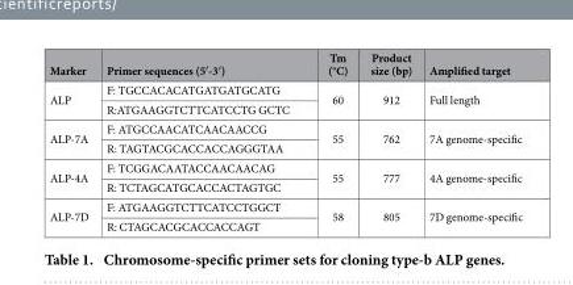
<table><thead><tr><td>Marker</td><td>Primer sequences (5′ -3′ )</td><td>Tm (°C)</td><td>Product size (bp)</td><td>Amplified target</td></tr></thead><tbody><tr><td rowspan="2">ALP</td><td>F: TGCCACACATGATGATGCATG</td><td rowspan="2">60</td><td rowspan="2">912</td><td rowspan="2">Full length</td></tr><tr><td>R:ATGAAGGTCTTCATCCTG GCTC</td></tr><tr><td rowspan="2">ALP-7A</td><td>F: ATGCCAACATCAACAACCG</td><td rowspan="2">55</td><td rowspan="2">762</td><td rowspan="2">7A genome-specific</td></tr><tr><td>R: TAGTACGCACCACCAGGGTAA</td></tr><tr><td rowspan="2">ALP-4A</td><td>F: TCGGACAATACCAACAACAG</td><td rowspan="2">55</td><td rowspan="2">777</td><td rowspan="2">4A genome-specific</td></tr><tr><td>R: TCTAGCATGCACCACTAGTGC</td></tr><tr><td rowspan="2">ALP-7D</td><td>F: ATGAAGGTCTTCATCCTGGCT</td><td rowspan="2">58</td><td rowspan="2">805</td><td rowspan="2">7D genome-specific</td></tr><tr><td>R: CTAGCACGCACCACCAGT</td></tr></tbody></table>